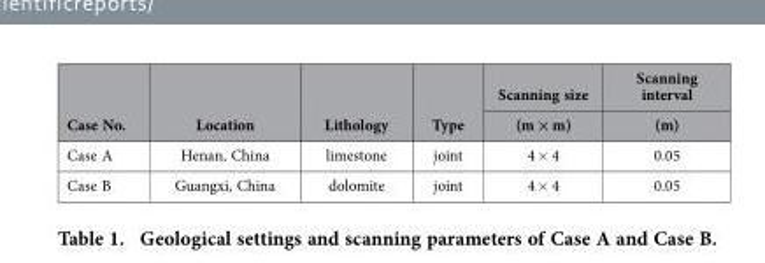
<table><thead><tr><td rowspan="2">Case No.</td><td rowspan="2">Location</td><td rowspan="2">Lithology</td><td rowspan="2">Type</td><td rowspan="2">Scanning size (m × m)</td><td rowspan="2">Scanning interval (m)</td></tr><tr></tr></thead><tbody><tr><td>Case A</td><td>Henan, China</td><td>limestone</td><td>joint</td><td>4 × 4</td><td>0.05</td></tr><tr><td>Case B</td><td>Guangxi, China</td><td>dolomite</td><td>joint</td><td>4 × 4</td><td>0.05</td></tr></tbody></table>